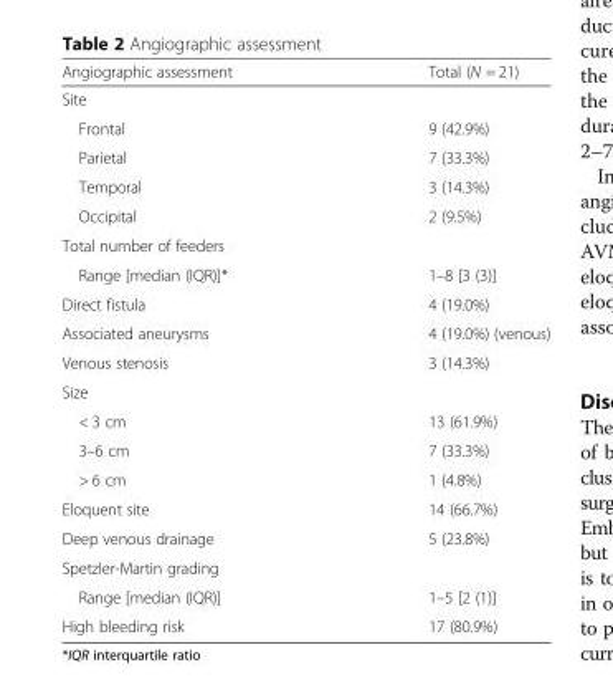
<table><thead><tr><td>Angiographic assessment</td><td>Total (N = 21)</td></tr></thead><tbody><tr><td colspan="2">Site</td></tr><tr><td>Frontal</td><td>9 (42.9%)</td></tr><tr><td>Parietal</td><td>7 (33.3%)</td></tr><tr><td>Temporal</td><td>3 (14.3%)</td></tr><tr><td>Occipital</td><td>2 (9.5%)</td></tr><tr><td colspan="2">Total number of feeders</td></tr><tr><td>Range [median (IQR)]*</td><td>1–8 [3 (3)]</td></tr><tr><td>Direct fistula</td><td>4 (19.0%)</td></tr><tr><td>Associated aneurysms</td><td>4 (19.0%) (venous)</td></tr><tr><td>Venous stenosis</td><td>3 (14.3%)</td></tr><tr><td colspan="2">Size</td></tr><tr><td>&lt; 3 cm</td><td>13 (61.9%)</td></tr><tr><td>3–6 cm</td><td>7 (33.3%)</td></tr><tr><td>&gt; 6 cm</td><td>1 (4.8%)</td></tr><tr><td>Eloquent site</td><td>14 (66.7%)</td></tr><tr><td>Deep venous drainage</td><td>5 (23.8%)</td></tr><tr><td colspan="2">Spetzler-Martin grading</td></tr><tr><td>Range [median (IQR)]</td><td>1–5 [2 (1)]</td></tr><tr><td>High bleeding risk</td><td>17 (80.9%)</td></tr></tbody></table>